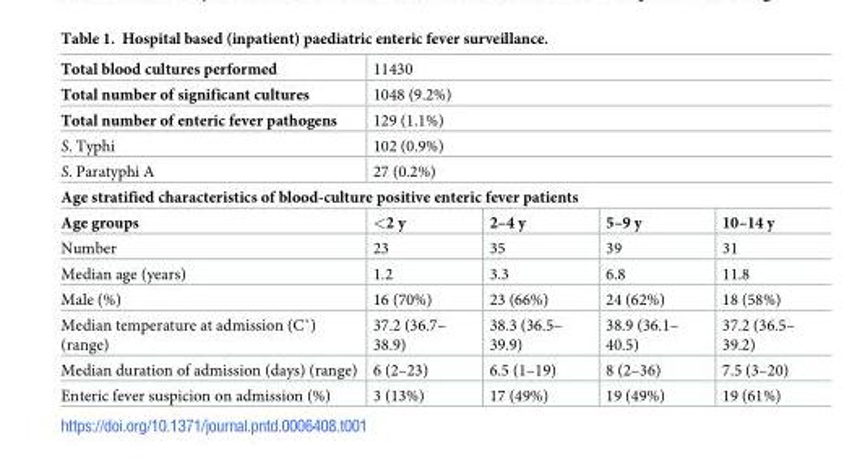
<table><tbody><tr><td>Total blood cultures performed</td><td colspan="4">11430</td></tr><tr><td>Total number of significant cultures</td><td colspan="4">1048 (9.2%)</td></tr><tr><td>Total number of enteric fever pathogens</td><td colspan="4">129 (1.1%)</td></tr><tr><td>S. Typhi</td><td colspan="4">102 (0.9%)</td></tr><tr><td>S. Paratyphi A</td><td colspan="4">27 (0.2%)</td></tr><tr><td colspan="5">Age stratified characteristics of blood-culture positive enteric fever patients</td></tr><tr><td>Age groups</td><td>&lt;2 y</td><td>2–4 y</td><td>5–9 y</td><td>10–14 y</td></tr><tr><td>Number</td><td>23</td><td>35</td><td>39</td><td>31</td></tr><tr><td>Median age (years)</td><td>1.2</td><td>3.3</td><td>6.8</td><td>11.8</td></tr><tr><td>Male (%)</td><td>16 (70%)</td><td>23 (66%)</td><td>24 (62%)</td><td>18 (58%)</td></tr><tr><td>Median temperature at admission (C˚) (range)</td><td>37.2 (36.7– 38.9)</td><td>38.3 (36.5– 39.9)</td><td>38.9 (36.1– 40.5)</td><td>37.2 (36.5– 39.2)</td></tr><tr><td>Median duration of admission (days) (range)</td><td>6 (2–23)</td><td>6.5 (1–19)</td><td>8 (2–36)</td><td>7.5 (3–20)</td></tr><tr><td>Enteric fever suspicion on admission (%)</td><td>3 (13%)</td><td>17 (49%)</td><td>19 (49%)</td><td>19 (61%)</td></tr></tbody></table>